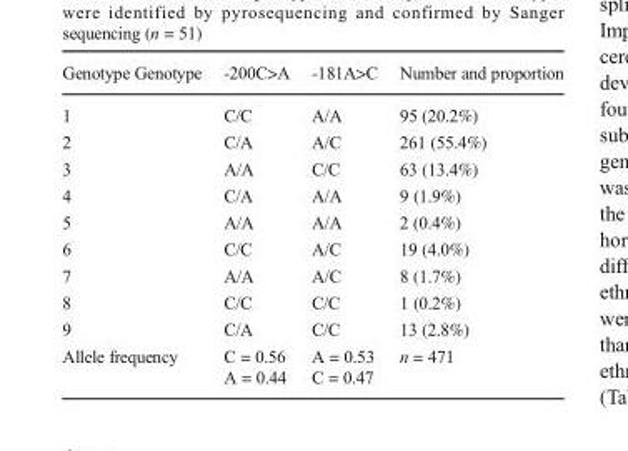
<table><thead><tr><td>Genotype Genotype</td><td>-200C&gt;A</td><td>-181A&gt;C</td><td>Number and proportion</td></tr></thead><tbody><tr><td>1</td><td>C/C</td><td>A/A</td><td>95 (20.2%)</td></tr><tr><td>2</td><td>C/A</td><td>A/C</td><td>261 (55.4%)</td></tr><tr><td>3</td><td>A/A</td><td>C/C</td><td>63 (13.4%)</td></tr><tr><td>4</td><td>C/A</td><td>A/A</td><td>9 (1.9%)</td></tr><tr><td>5</td><td>A/A</td><td>A/A</td><td>2 (0.4%)</td></tr><tr><td>6</td><td>C/C</td><td>A/C</td><td>19 (4.0%)</td></tr><tr><td>7</td><td>A/A</td><td>A/C</td><td>8 (1.7%)</td></tr><tr><td>8</td><td>C/C</td><td>C/C</td><td>1 (0.2%)</td></tr><tr><td>9</td><td>C/A</td><td>C/C</td><td>13 (2.8%)</td></tr><tr><td>Allele frequency</td><td>C = 0.56 A = 0.44</td><td>A = 0.53 C = 0.47</td><td>n = 471</td></tr></tbody></table>